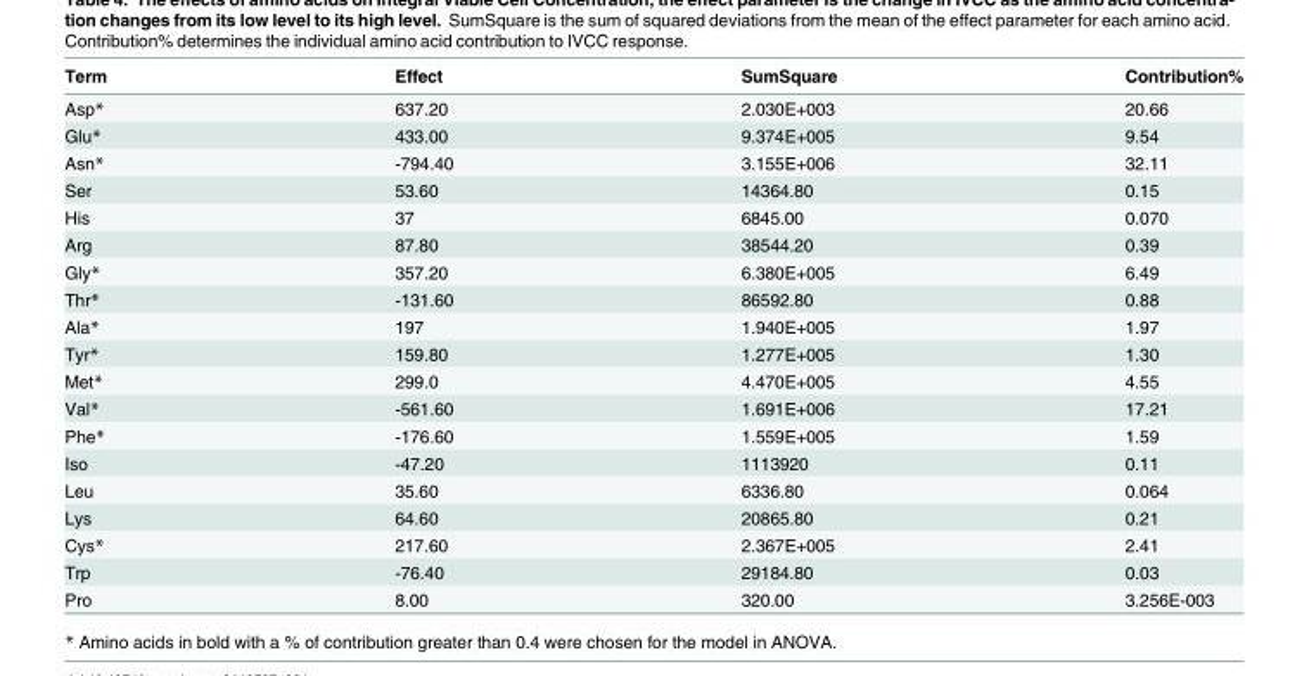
<table><thead><tr><td>Term</td><td>Effect</td><td>SumSquare</td><td>Contribution%</td></tr></thead><tbody><tr><td>Asp*</td><td>637.20</td><td>2.030E+003</td><td>20.66</td></tr><tr><td>Glu*</td><td>433.00</td><td>9.374E+005</td><td>9.54</td></tr><tr><td>Asn*</td><td>-794.40</td><td>3.155E+006</td><td>32.11</td></tr><tr><td>Ser</td><td>53.60</td><td>14364.80</td><td>0.15</td></tr><tr><td>His</td><td>37</td><td>6845.00</td><td>0.070</td></tr><tr><td>Arg</td><td>87.80</td><td>38544.20</td><td>0.39</td></tr><tr><td>Gly*</td><td>357.20</td><td>6.380E+005</td><td>6.49</td></tr><tr><td>Thr*</td><td>-131.60</td><td>86592.80</td><td>0.88</td></tr><tr><td>Ala*</td><td>197</td><td>1.940E+005</td><td>1.97</td></tr><tr><td>Tyr*</td><td>159.80</td><td>1.277E+005</td><td>1.30</td></tr><tr><td>Met*</td><td>299.0</td><td>4.470E+005</td><td>4.55</td></tr><tr><td>Val*</td><td>-561.60</td><td>1.691E+006</td><td>17.21</td></tr><tr><td>Phe*</td><td>-176.60</td><td>1.559E+005</td><td>1.59</td></tr><tr><td>Iso</td><td>-47.20</td><td>1113920</td><td>0.11</td></tr><tr><td>Leu</td><td>35.60</td><td>6336.80</td><td>0.064</td></tr><tr><td>Lys</td><td>64.60</td><td>20865.80</td><td>0.21</td></tr><tr><td>Cys*</td><td>217.60</td><td>2.367E+005</td><td>2.41</td></tr><tr><td>Trp</td><td>-76.40</td><td>29184.80</td><td>0.03</td></tr><tr><td>Pro</td><td>8.00</td><td>320.00</td><td>3.256E-003</td></tr></tbody></table>